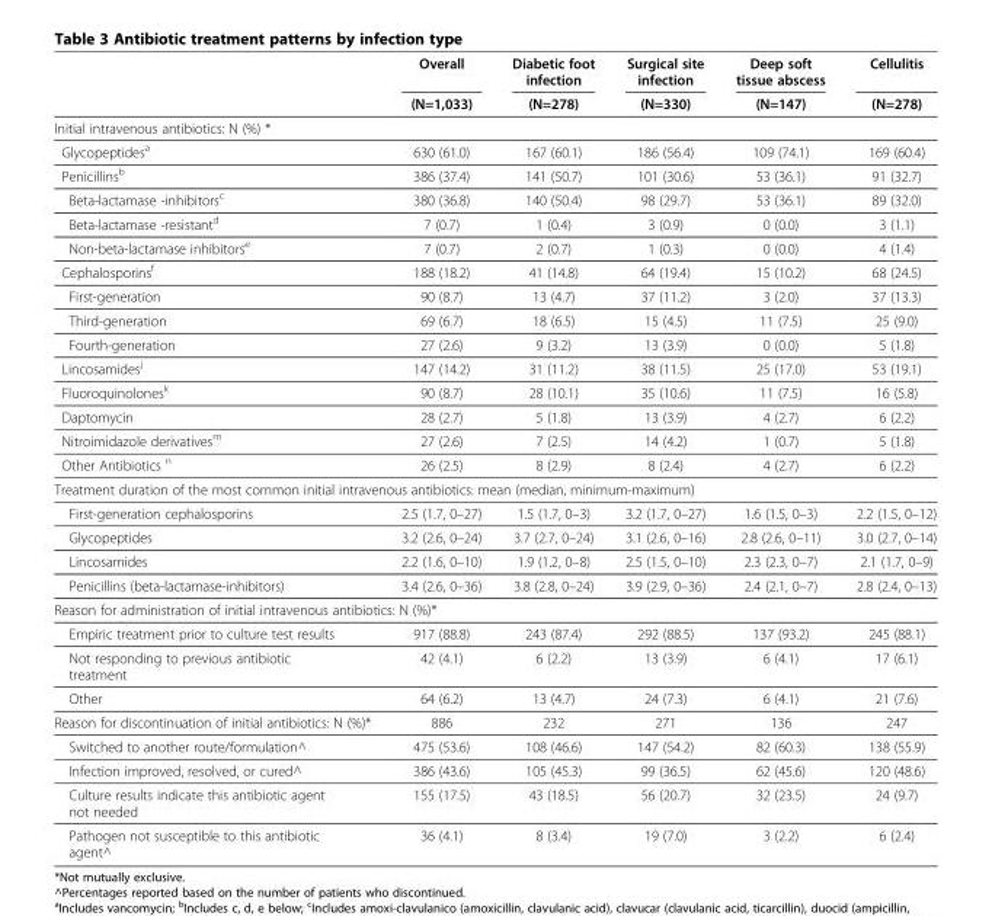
<table><thead><tr><td rowspan="2"></td><td rowspan="2">Overall (N=1,033)</td><td rowspan="2">Diabetic foot infection (N=278)</td><td rowspan="2">Surgical site infection (N=330)</td><td rowspan="2">Deep soft tissue abscess (N=147)</td><td rowspan="2">Cellulitis (N=278)</td></tr><tr></tr></thead><tbody><tr><td colspan="6">Initial intravenous antibiotics: N (%) *</td></tr><tr><td>Glycopeptides<sup>a</sup></td><td>630 (61.0)</td><td>167 (60.1)</td><td>186 (56.4)</td><td>109 (74.1)</td><td>169 (60.4)</td></tr><tr><td>Penicillins<sup>b</sup></td><td>386 (37.4)</td><td>141 (50.7)</td><td>101 (30.6)</td><td>53 (36.1)</td><td>91 (32.7)</td></tr><tr><td>Beta-lactamase -inhibitors<sup>c</sup></td><td>380 (36.8)</td><td>140 (50.4)</td><td>98 (29.7)</td><td>53 (36.1)</td><td>89 (32.0)</td></tr><tr><td>Beta-lactamase -resistant<sup>d</sup></td><td>7 (0.7)</td><td>1 (0.4)</td><td>3 (0.9)</td><td>0 (0.0)</td><td>3 (1.1)</td></tr><tr><td>Non-beta-lactamase inhibitors<sup>e</sup></td><td>7 (0.7)</td><td>2 (0.7)</td><td>1 (0.3)</td><td>0 (0.0)</td><td>4 (1.4)</td></tr><tr><td>Cephalosporins<sup>f</sup></td><td>188 (18.2)</td><td>41 (14.8)</td><td>64 (19.4)</td><td>15 (10.2)</td><td>68 (24.5)</td></tr><tr><td>First-generation</td><td>90 (8.7)</td><td>13 (4.7)</td><td>37 (11.2)</td><td>3 (2.0)</td><td>37 (13.3)</td></tr><tr><td>Third-generation</td><td>69 (6.7)</td><td>18 (6.5)</td><td>15 (4.5)</td><td>11 (7.5)</td><td>25 (9.0)</td></tr><tr><td>Fourth-generation</td><td>27 (2.6)</td><td>9 (3.2)</td><td>13 (3.9)</td><td>0 (0.0)</td><td>5 (1.8)</td></tr><tr><td>Lincosamides<sup>j</sup></td><td>147 (14.2)</td><td>31 (11.2)</td><td>38 (11.5)</td><td>25 (17.0)</td><td>53 (19.1)</td></tr><tr><td>Fluoroquinolones<sup>k</sup></td><td>90 (8.7)</td><td>28 (10.1)</td><td>35 (10.6)</td><td>11 (7.5)</td><td>16 (5.8)</td></tr><tr><td>Daptomycin</td><td>28 (2.7)</td><td>5 (1.8)</td><td>13 (3.9)</td><td>4 (2.7)</td><td>6 (2.2)</td></tr><tr><td>Nitroimidazole derivatives<sup>m</sup></td><td>27 (2.6)</td><td>7 (2.5)</td><td>14 (4.2)</td><td>1 (0.7)</td><td>5 (1.8)</td></tr><tr><td>Other Antibiotics <sup>n</sup></td><td>26 (2.5)</td><td>8 (2.9)</td><td>8 (2.4)</td><td>4 (2.7)</td><td>6 (2.2)</td></tr><tr><td colspan="6">Treatment duration of the most common initial intravenous antibiotics: mean (median, minimum-maximum)</td></tr><tr><td>First-generation cephalosporins</td><td>2.5 (1.7, 0–27)</td><td>1.5 (1.7, 0–3)</td><td>3.2 (1.7, 0–27)</td><td>1.6 (1.5, 0–3)</td><td>2.2 (1.5, 0–12)</td></tr><tr><td>Glycopeptides</td><td>3.2 (2.6, 0–24)</td><td>3.7 (2.7, 0–24)</td><td>3.1 (2.6, 0–16)</td><td>2.8 (2.6, 0–11)</td><td>3.0 (2.7, 0–14)</td></tr><tr><td>Lincosamides</td><td>2.2 (1.6, 0–10)</td><td>1.9 (1.2, 0–8)</td><td>2.5 (1.5, 0–10)</td><td>2.3 (2.3, 0–7)</td><td>2.1 (1.7, 0–9)</td></tr><tr><td>Penicillins (beta-lactamase-inhibitors)</td><td>3.4 (2.6, 0–36)</td><td>3.8 (2.8, 0–24)</td><td>3.9 (2.9, 0–36)</td><td>2.4 (2.1, 0–7)</td><td>2.8 (2.4, 0–13)</td></tr><tr><td colspan="6">Reason for administration of initial intravenous antibiotics: N (%)*</td></tr><tr><td>Empiric treatment prior to culture test results</td><td>917 (88.8)</td><td>243 (87.4)</td><td>292 (88.5)</td><td>137 (93.2)</td><td>245 (88.1)</td></tr><tr><td>Not responding to previous antibiotic treatment</td><td>42 (4.1)</td><td>6 (2.2)</td><td>13 (3.9)</td><td>6 (4.1)</td><td>17 (6.1)</td></tr><tr><td>Other</td><td>64 (6.2)</td><td>13 (4.7)</td><td>24 (7.3)</td><td>6 (4.1)</td><td>21 (7.6)</td></tr><tr><td>Reason for discontinuation of initial antibiotics: N (%)*</td><td>886</td><td>232</td><td>271</td><td>136</td><td>247</td></tr><tr><td>Switched to another route/formulation^</td><td>475 (53.6)</td><td>108 (46.6)</td><td>147 (54.2)</td><td>82 (60.3)</td><td>138 (55.9)</td></tr><tr><td>Infection improved, resolved, or cured^</td><td>386 (43.6)</td><td>105 (45.3)</td><td>99 (36.5)</td><td>62 (45.6)</td><td>120 (48.6)</td></tr><tr><td>Culture results indicate this antibiotic agent not needed</td><td>155 (17.5)</td><td>43 (18.5)</td><td>56 (20.7)</td><td>32 (23.5)</td><td>24 (9.7)</td></tr><tr><td>Pathogen not susceptible to this antibiotic agent^</td><td>36 (4.1)</td><td>8 (3.4)</td><td>19 (7.0)</td><td>3 (2.2)</td><td>6 (2.4)</td></tr></tbody></table>